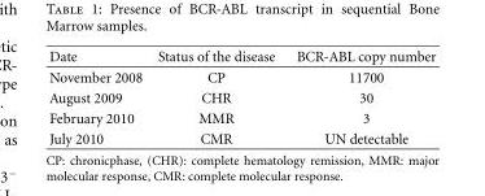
<table><thead><tr><td>Date</td><td>Status of the disease</td><td>BCR-ABL copy number</td></tr></thead><tbody><tr><td>November 2008</td><td>CP</td><td>11700</td></tr><tr><td>August 2009</td><td>CHR</td><td>30</td></tr><tr><td>February 2010</td><td>MMR</td><td>3</td></tr><tr><td>July 2010</td><td>CMR</td><td>UN detectable</td></tr></tbody></table>